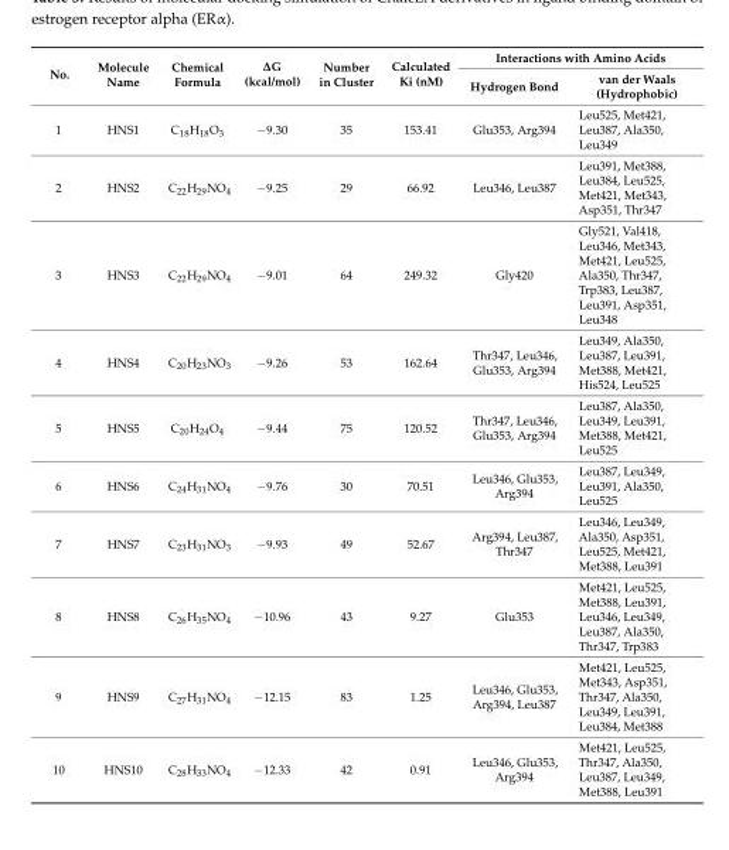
<table><thead><tr><td rowspan="2">No.</td><td rowspan="2">Molecule Name</td><td rowspan="2">Chemical Formula</td><td rowspan="2">∆G (kcal/mol)</td><td rowspan="2">Number in Cluster</td><td rowspan="2">Calculated Ki (nM)</td><td colspan="2">Interactions with Amino Acids</td></tr><tr><td>Hydrogen Bond</td><td>van der Waals (Hydrophobic)</td></tr></thead><tbody><tr><td>1</td><td>HNS1</td><td>C<sub>18</sub>H<sub>18</sub>O<sub>3</sub></td><td>−9.30</td><td>35</td><td>153.41</td><td>Glu353, Arg394</td><td>Leu525, Met421, Leu387, Ala350, Leu349</td></tr><tr><td>2</td><td>HNS2</td><td>C<sub>22</sub>H<sub>29</sub>NO<sub>4</sub></td><td>−9.25</td><td>29</td><td>66.92</td><td>Leu346, Leu387</td><td>Leu391, Met388, Leu384, Leu525, Met421, Met343, Asp351, Thr347</td></tr><tr><td>3</td><td>HNS3</td><td>C<sub>22</sub>H<sub>29</sub>NO<sub>4</sub></td><td>−9.01</td><td>64</td><td>249.32</td><td>Gly420</td><td>Gly521, Val418, Leu346, Met343, Met421, Leu525, Ala350, Thr347, Trp383, Leu387, Leu391, Asp351, Leu348</td></tr><tr><td>4</td><td>HNS4</td><td>C<sub>20</sub>H<sub>23</sub>NO<sub>3</sub></td><td>−9.26</td><td>53</td><td>162.64</td><td>Thr347, Leu346, Glu353, Arg394</td><td>Leu349, Ala350, Leu387, Leu391, Met388, Met421, His524, Leu525</td></tr><tr><td>5</td><td>HNS5</td><td>C<sub>20</sub>H<sub>24</sub>O<sub>4</sub></td><td>−9.44</td><td>75</td><td>120.52</td><td>Thr347, Leu346, Glu353, Arg394</td><td>Leu387, Ala350, Leu349, Leu391, Met388, Met421, Leu525</td></tr><tr><td>6</td><td>HNS6</td><td>C<sub>24</sub>H<sub>31</sub>NO<sub>4</sub></td><td>−9.76</td><td>30</td><td>70.51</td><td>Leu346, Glu353, Arg394</td><td>Leu387, Leu349, Leu391, Ala350, Leu525</td></tr><tr><td>7</td><td>HNS7</td><td>C<sub>23</sub>H<sub>31</sub>NO<sub>3</sub></td><td>−9.93</td><td>49</td><td>52.67</td><td>Arg394, Leu387, Thr347</td><td>Leu346, Leu349, Ala350, Asp351, Leu525, Met421, Met388, Leu391</td></tr><tr><td>8</td><td>HNS8</td><td>C<sub>26</sub>H<sub>35</sub>NO<sub>4</sub></td><td>−10.96</td><td>43</td><td>9.27</td><td>Glu353</td><td>Met421, Leu525, Met388, Leu391, Leu346, Leu349, Leu387, Ala350, Thr347, Trp383</td></tr><tr><td>9</td><td>HNS9</td><td>C<sub>27</sub>H<sub>31</sub>NO<sub>4</sub></td><td>−12.15</td><td>83</td><td>1.25</td><td>Leu346, Glu353, Arg394, Leu387</td><td>Met421, Leu525, Met343, Asp351, Thr347, Ala350, Leu349, Leu391, Leu384, Met388</td></tr><tr><td>10</td><td>HNS10</td><td>C<sub>28</sub>H<sub>33</sub>NO<sub>4</sub></td><td>−12.33</td><td>42</td><td>0.91</td><td>Leu346, Glu353, Arg394</td><td>Met421, Leu525, Thr347, Ala350, Leu387, Leu349, Met388, Leu391</td></tr></tbody></table>